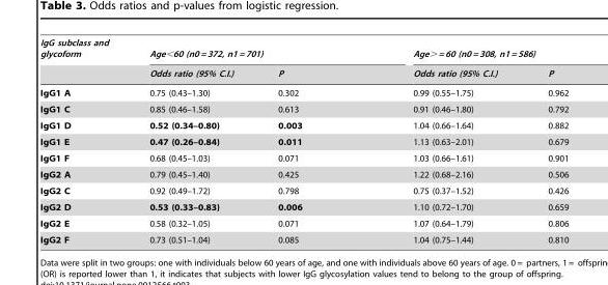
<table><thead><tr><td rowspan="2">IgG subclass and glycoform</td><td colspan="2">Age&lt;60 (n0 = 372, n1 = 701)</td><td colspan="2">Age&gt; = 60 (n0 = 308, n1 = 586)</td></tr><tr><td>Odds ratio (95% C.I.)</td><td>P</td><td>Odds ratio (95% C.I.)</td><td>P</td></tr></thead><tbody><tr><td>IgG1 A</td><td>0.75 (0.43–1.30)</td><td>0.302</td><td>0.99 (0.55–1.75)</td><td>0.962</td></tr><tr><td>IgG1 C</td><td>0.85 (0.46–1.58)</td><td>0.613</td><td>0.91 (0.46–1.80)</td><td>0.792</td></tr><tr><td>IgG1 D</td><td>0.52 (0.34–0.80)</td><td>0.003</td><td>1.04 (0.66–1.64)</td><td>0.882</td></tr><tr><td>IgG1 E</td><td>0.47 (0.26–0.84)</td><td>0.011</td><td>1.13 (0.63–2.01)</td><td>0.679</td></tr><tr><td>IgG1 F</td><td>0.68 (0.45–1.03)</td><td>0.071</td><td>1.03 (0.66–1.61)</td><td>0.901</td></tr><tr><td>IgG2 A</td><td>0.79 (0.45–1.40)</td><td>0.425</td><td>1.22 (0.68–2.16)</td><td>0.506</td></tr><tr><td>IgG2 C</td><td>0.92 (0.49–1.72)</td><td>0.798</td><td>0.75 (0.37–1.52)</td><td>0.426</td></tr><tr><td>IgG2 D</td><td>0.53 (0.33–0.83)</td><td>0.006</td><td>1.10 (0.72–1.70)</td><td>0.659</td></tr><tr><td>IgG2 E</td><td>0.58 (0.32–1.05)</td><td>0.071</td><td>1.07 (0.64–1.79)</td><td>0.806</td></tr><tr><td>IgG2 F</td><td>0.73 (0.51–1.04)</td><td>0.085</td><td>1.04 (0.75–1.44)</td><td>0.810</td></tr></tbody></table>